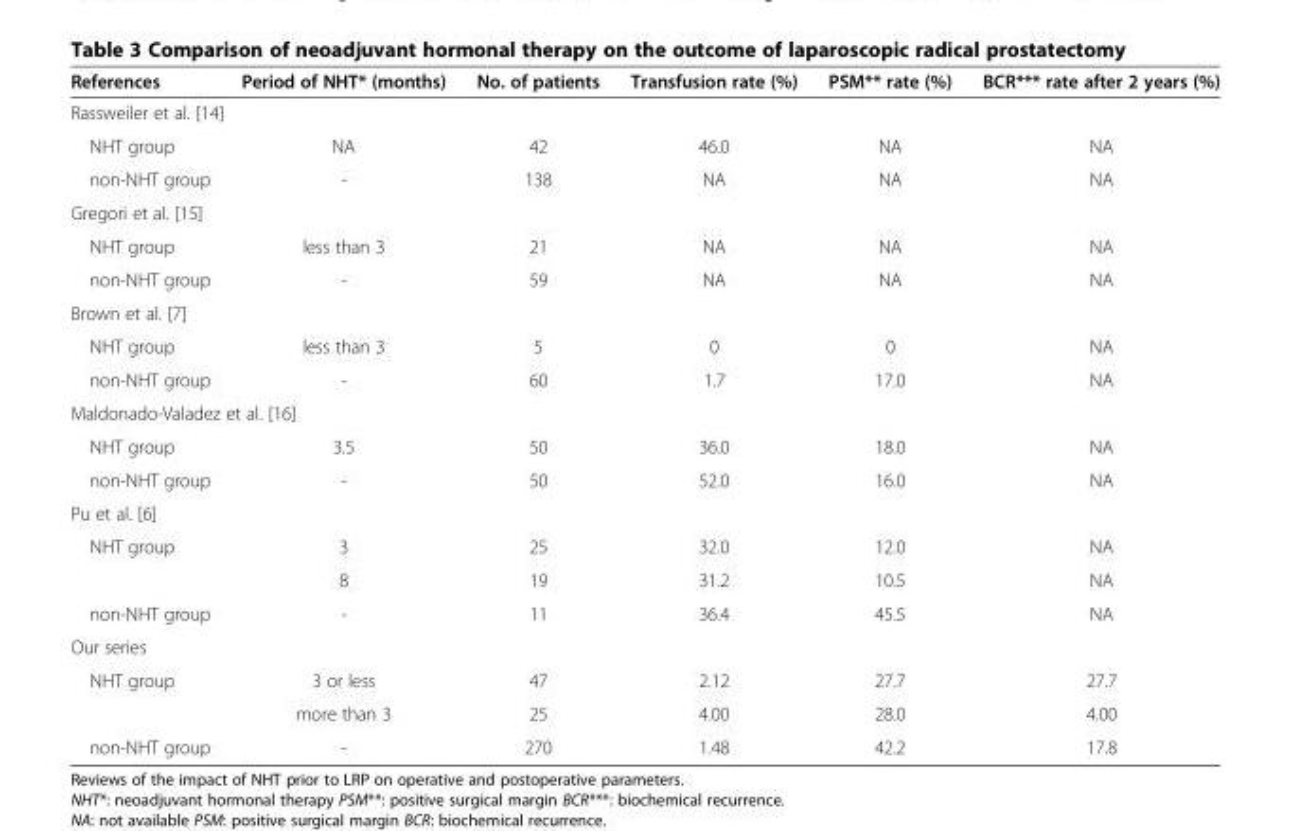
<table><thead><tr><td>References</td><td>Period of NHT* (months)</td><td>No. of patients</td><td>Transfusion rate (%)</td><td>PSM** rate (%)</td><td>BCR*** rate after 2 years (%)</td></tr></thead><tbody><tr><td colspan="6">Rassweiler et al. [14]</td></tr><tr><td>NHT group</td><td>NA</td><td>42</td><td>46.0</td><td>NA</td><td>NA</td></tr><tr><td>non-NHT group</td><td>-</td><td>138</td><td>NA</td><td>NA</td><td>NA</td></tr><tr><td colspan="6">Gregori et al. [15]</td></tr><tr><td>NHT group</td><td>less than 3</td><td>21</td><td>NA</td><td>NA</td><td>NA</td></tr><tr><td>non-NHT group</td><td>-</td><td>59</td><td>NA</td><td>NA</td><td>NA</td></tr><tr><td colspan="6">Brown et al. [7]</td></tr><tr><td>NHT group</td><td>less than 3</td><td>5</td><td>0</td><td>0</td><td>NA</td></tr><tr><td>non-NHT group</td><td>-</td><td>60</td><td>1.7</td><td>17.0</td><td>NA</td></tr><tr><td colspan="6">Maldonado-Valadez et al. [16]</td></tr><tr><td>NHT group</td><td>3.5</td><td>50</td><td>36.0</td><td>18.0</td><td>NA</td></tr><tr><td>non-NHT group</td><td>-</td><td>50</td><td>52.0</td><td>16.0</td><td>NA</td></tr><tr><td colspan="6">Pu et al. [6]</td></tr><tr><td rowspan="2">NHT group</td><td>3</td><td>25</td><td>32.0</td><td>12.0</td><td>NA</td></tr><tr><td>8</td><td>19</td><td>31.2</td><td>10.5</td><td>NA</td></tr><tr><td>non-NHT group</td><td>-</td><td>11</td><td>36.4</td><td>45.5</td><td>NA</td></tr><tr><td colspan="6">Our series</td></tr><tr><td rowspan="2">NHT group</td><td>3 or less</td><td>47</td><td>2.12</td><td>27.7</td><td>27.7</td></tr><tr><td>more than 3</td><td>25</td><td>4.00</td><td>28.0</td><td>4.00</td></tr><tr><td>non-NHT group</td><td>-</td><td>270</td><td>1.48</td><td>42.2</td><td>17.8</td></tr></tbody></table>